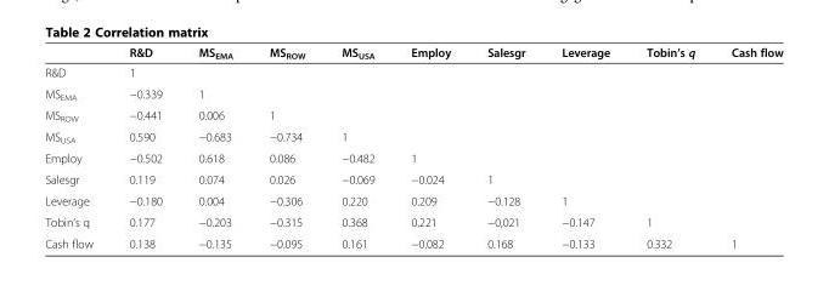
<table><thead><tr><td></td><td>R&amp;D</td><td>MS<sub>EMA</sub></td><td>MS<sub>ROW</sub></td><td>MS<sub>USA</sub></td><td>Employ</td><td>Salesgr</td><td>Leverage</td><td>Tobin’s q</td><td>Cash flow</td></tr></thead><tbody><tr><td>R&amp;D</td><td>1</td><td></td><td></td><td></td><td></td><td></td><td></td><td></td><td></td></tr><tr><td>MS<sub>EMA</sub></td><td>−0.339</td><td>1</td><td></td><td></td><td></td><td></td><td></td><td></td><td></td></tr><tr><td>MS<sub>ROW</sub></td><td>−0.441</td><td>0.006</td><td>1</td><td></td><td></td><td></td><td></td><td></td><td></td></tr><tr><td>MS<sub>USA</sub></td><td>0.590</td><td>−0.683</td><td>−0.734</td><td>1</td><td></td><td></td><td></td><td></td><td></td></tr><tr><td>Employ</td><td>−0.502</td><td>0.618</td><td>0.086</td><td>−0.482</td><td>1</td><td></td><td></td><td></td><td></td></tr><tr><td>Salesgr</td><td>0.119</td><td>0.074</td><td>0.026</td><td>−0.069</td><td>−0.024</td><td>1</td><td></td><td></td><td></td></tr><tr><td>Leverage</td><td>−0.180</td><td>0.004</td><td>−0.306</td><td>0.220</td><td>0.209</td><td>−0.128</td><td>1</td><td></td><td></td></tr><tr><td>Tobin’s q</td><td>0.177</td><td>−0.203</td><td>−0.315</td><td>0.368</td><td>0.221</td><td>−0,021</td><td>−0.147</td><td>1</td><td></td></tr><tr><td>Cash flow</td><td>0.138</td><td>−0.135</td><td>−0.095</td><td>0.161</td><td>−0.082</td><td>0.168</td><td>−0.133</td><td>0.332</td><td>1</td></tr></tbody></table>